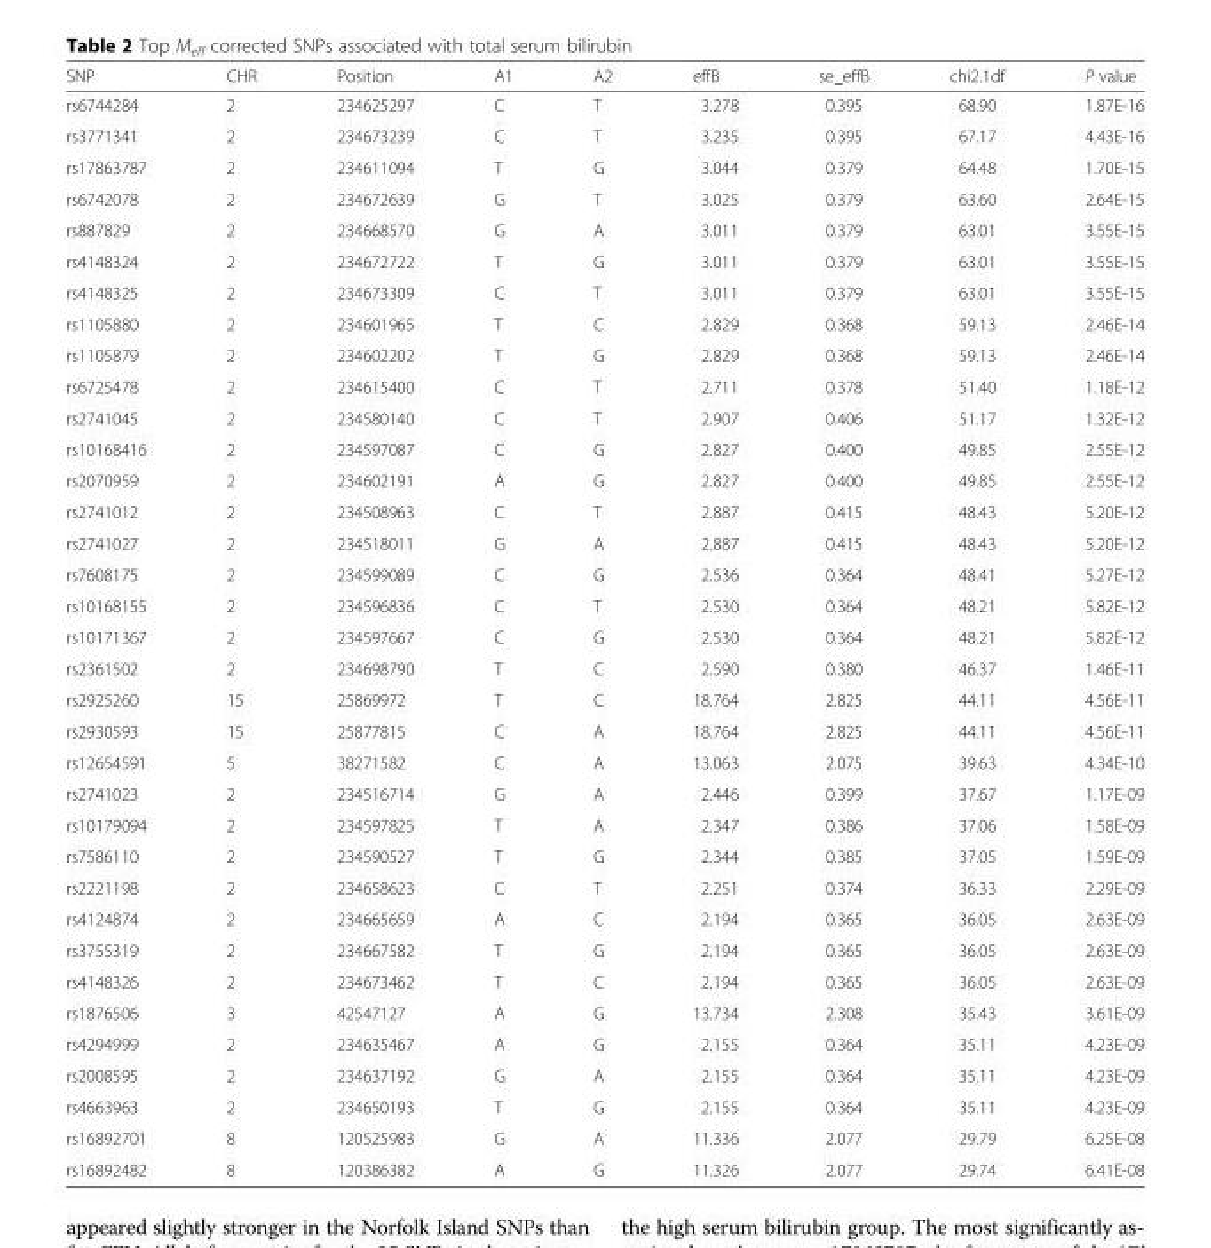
<table><thead><tr><td>SNP</td><td>CHR</td><td>Position</td><td>A1</td><td>A2</td><td>effB</td><td>se_effB</td><td>chi2.1df</td><td>P value</td></tr></thead><tbody><tr><td>rs6744284</td><td>2</td><td>234625297</td><td>C</td><td>T</td><td>3.278</td><td>0.395</td><td>68.90</td><td>1.87E-16</td></tr><tr><td>rs3771341</td><td>2</td><td>234673239</td><td>C</td><td>T</td><td>3.235</td><td>0.395</td><td>67.17</td><td>4.43E-16</td></tr><tr><td>rs17863787</td><td>2</td><td>234611094</td><td>T</td><td>G</td><td>3.044</td><td>0.379</td><td>64.48</td><td>1.70E-15</td></tr><tr><td>rs6742078</td><td>2</td><td>234672639</td><td>G</td><td>T</td><td>3.025</td><td>0.379</td><td>63.60</td><td>2.64E-15</td></tr><tr><td>rs887829</td><td>2</td><td>234668570</td><td>G</td><td>A</td><td>3.011</td><td>0.379</td><td>63.01</td><td>3.55E-15</td></tr><tr><td>rs4148324</td><td>2</td><td>234672722</td><td>T</td><td>G</td><td>3.011</td><td>0.379</td><td>63.01</td><td>3.55E-15</td></tr><tr><td>rs4148325</td><td>2</td><td>234673309</td><td>C</td><td>T</td><td>3.011</td><td>0.379</td><td>63.01</td><td>3.55E-15</td></tr><tr><td>rs1105880</td><td>2</td><td>234601965</td><td>T</td><td>C</td><td>2.829</td><td>0.368</td><td>59.13</td><td>2.46E-14</td></tr><tr><td>rs1105879</td><td>2</td><td>234602202</td><td>T</td><td>G</td><td>2.829</td><td>0.368</td><td>59.13</td><td>2.46E-14</td></tr><tr><td>rs6725478</td><td>2</td><td>234615400</td><td>C</td><td>T</td><td>2.711</td><td>0.378</td><td>51.40</td><td>1.18E-12</td></tr><tr><td>rs2741045</td><td>2</td><td>234580140</td><td>C</td><td>T</td><td>2.907</td><td>0.406</td><td>51.17</td><td>1.32E-12</td></tr><tr><td>rs10168416</td><td>2</td><td>234597087</td><td>C</td><td>G</td><td>2.827</td><td>0.400</td><td>49.85</td><td>2.55E-12</td></tr><tr><td>rs2070959</td><td>2</td><td>234602191</td><td>A</td><td>G</td><td>2.827</td><td>0.400</td><td>49.85</td><td>2.55E-12</td></tr><tr><td>rs2741012</td><td>2</td><td>234508963</td><td>C</td><td>T</td><td>2.887</td><td>0.415</td><td>48.43</td><td>5.20E-12</td></tr><tr><td>rs2741027</td><td>2</td><td>234518011</td><td>G</td><td>A</td><td>2.887</td><td>0.415</td><td>48.43</td><td>5.20E-12</td></tr><tr><td>rs7608175</td><td>2</td><td>234599089</td><td>C</td><td>G</td><td>2.536</td><td>0.364</td><td>48.41</td><td>5.27E-12</td></tr><tr><td>rs10168155</td><td>2</td><td>234596836</td><td>C</td><td>T</td><td>2.530</td><td>0.364</td><td>48.21</td><td>5.82E-12</td></tr><tr><td>rs10171367</td><td>2</td><td>234597667</td><td>C</td><td>G</td><td>2.530</td><td>0.364</td><td>48.21</td><td>5.82E-12</td></tr><tr><td>rs2361502</td><td>2</td><td>234698790</td><td>T</td><td>C</td><td>2.590</td><td>0.380</td><td>46.37</td><td>1.46E-11</td></tr><tr><td>rs2925260</td><td>15</td><td>25869972</td><td>T</td><td>C</td><td>18.764</td><td>2.825</td><td>44.11</td><td>4.56E-11</td></tr><tr><td>rs2930593</td><td>15</td><td>25877815</td><td>C</td><td>A</td><td>18.764</td><td>2.825</td><td>44.11</td><td>4.56E-11</td></tr><tr><td>rs12654591</td><td>5</td><td>38271582</td><td>C</td><td>A</td><td>13.063</td><td>2.075</td><td>39.63</td><td>4.34E-10</td></tr><tr><td>rs2741023</td><td>2</td><td>234516714</td><td>G</td><td>A</td><td>2.446</td><td>0.399</td><td>37.67</td><td>1.17E-09</td></tr><tr><td>rs10179094</td><td>2</td><td>234597825</td><td>T</td><td>A</td><td>2.347</td><td>0.386</td><td>37.06</td><td>1.58E-09</td></tr><tr><td>rs7586110</td><td>2</td><td>234590527</td><td>T</td><td>G</td><td>2.344</td><td>0.385</td><td>37.05</td><td>1.59E-09</td></tr><tr><td>rs2221198</td><td>2</td><td>234658623</td><td>C</td><td>T</td><td>2.251</td><td>0.374</td><td>36.33</td><td>2.29E-09</td></tr><tr><td>rs4124874</td><td>2</td><td>234665659</td><td>A</td><td>C</td><td>2.194</td><td>0.365</td><td>36.05</td><td>2.63E-09</td></tr><tr><td>rs3755319</td><td>2</td><td>234667582</td><td>T</td><td>G</td><td>2.194</td><td>0.365</td><td>36.05</td><td>2.63E-09</td></tr><tr><td>rs4148326</td><td>2</td><td>234673462</td><td>T</td><td>C</td><td>2.194</td><td>0.365</td><td>36.05</td><td>2.63E-09</td></tr><tr><td>rs1876506</td><td>3</td><td>42547127</td><td>A</td><td>G</td><td>13.734</td><td>2.308</td><td>35.43</td><td>3.61E-09</td></tr><tr><td>rs4294999</td><td>2</td><td>234635467</td><td>A</td><td>G</td><td>2.155</td><td>0.364</td><td>35.11</td><td>4.23E-09</td></tr><tr><td>rs2008595</td><td>2</td><td>234637192</td><td>G</td><td>A</td><td>2.155</td><td>0.364</td><td>35.11</td><td>4.23E-09</td></tr><tr><td>rs4663963</td><td>2</td><td>234650193</td><td>T</td><td>G</td><td>2.155</td><td>0.364</td><td>35.11</td><td>4.23E-09</td></tr><tr><td>rs16892701</td><td>8</td><td>120525983</td><td>G</td><td>A</td><td>11.336</td><td>2.077</td><td>29.79</td><td>6.25E-08</td></tr><tr><td>rs16892482</td><td>8</td><td>120386382</td><td>A</td><td>G</td><td>11.326</td><td>2.077</td><td>29.74</td><td>6.41E-08</td></tr></tbody></table>